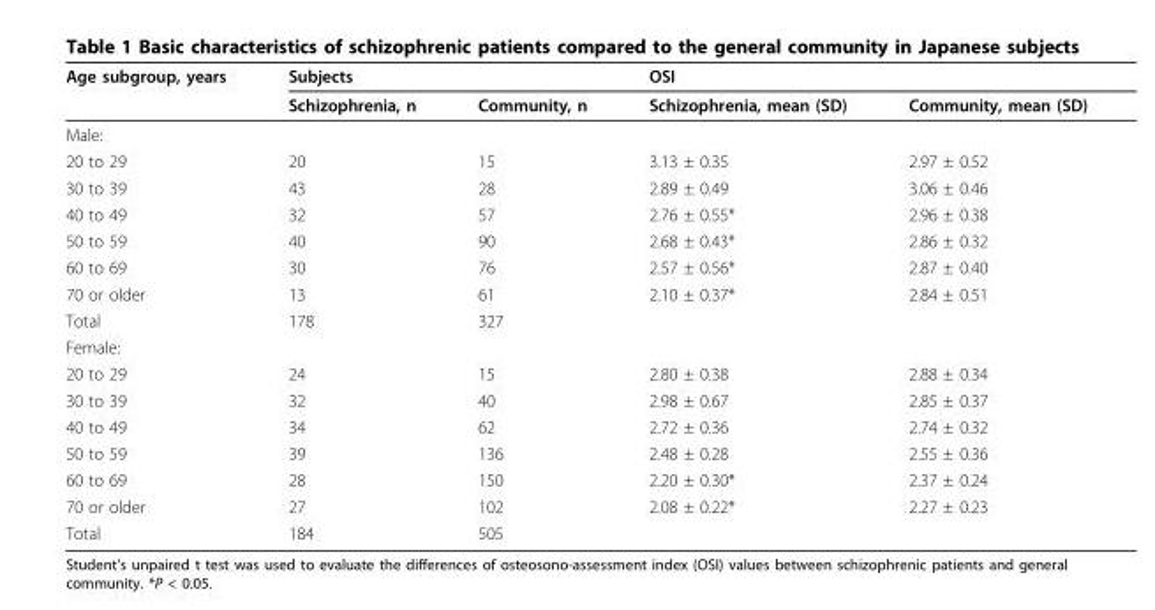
<table><thead><tr><td rowspan="2">Age subgroup, years</td><td colspan="2">Subjects</td><td colspan="2">OSI</td></tr><tr><td>Schizophrenia, n</td><td>Community, n</td><td>Schizophrenia, mean (SD)</td><td>Community, mean (SD)</td></tr></thead><tbody><tr><td colspan="5">Male:</td></tr><tr><td>20 to 29</td><td>20</td><td>15</td><td>3.13 ± 0.35</td><td>2.97 ± 0.52</td></tr><tr><td>30 to 39</td><td>43</td><td>28</td><td>2.89 ± 0.49</td><td>3.06 ± 0.46</td></tr><tr><td>40 to 49</td><td>32</td><td>57</td><td>2.76 ± 0.55*</td><td>2.96 ± 0.38</td></tr><tr><td>50 to 59</td><td>40</td><td>90</td><td>2.68 ± 0.43*</td><td>2.86 ± 0.32</td></tr><tr><td>60 to 69</td><td>30</td><td>76</td><td>2.57 ± 0.56*</td><td>2.87 ± 0.40</td></tr><tr><td>70 or older</td><td>13</td><td>61</td><td>2.10 ± 0.37*</td><td>2.84 ± 0.51</td></tr><tr><td>Total</td><td>178</td><td>327</td><td></td><td></td></tr><tr><td colspan="5">Female:</td></tr><tr><td>20 to 29</td><td>24</td><td>15</td><td>2.80 ± 0.38</td><td>2.88 ± 0.34</td></tr><tr><td>30 to 39</td><td>32</td><td>40</td><td>2.98 ± 0.67</td><td>2.85 ± 0.37</td></tr><tr><td>40 to 49</td><td>34</td><td>62</td><td>2.72 ± 0.36</td><td>2.74 ± 0.32</td></tr><tr><td>50 to 59</td><td>39</td><td>136</td><td>2.48 ± 0.28</td><td>2.55 ± 0.36</td></tr><tr><td>60 to 69</td><td>28</td><td>150</td><td>2.20 ± 0.30*</td><td>2.37 ± 0.24</td></tr><tr><td>70 or older</td><td>27</td><td>102</td><td>2.08 ± 0.22*</td><td>2.27 ± 0.23</td></tr><tr><td>Total</td><td>184</td><td>505</td><td></td><td></td></tr></tbody></table>